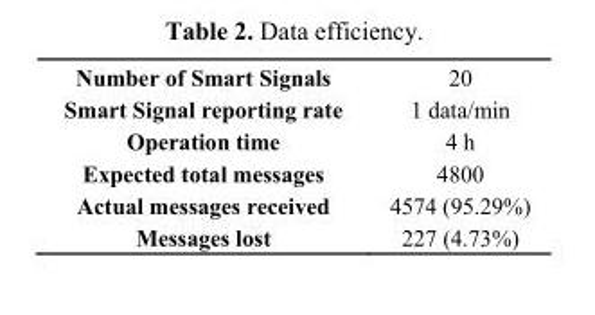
<table><tbody><tr><td>Number of Smart Signals</td><td>20</td></tr><tr><td>Smart Signal reporting rate</td><td>1 data/min</td></tr><tr><td>Operation time</td><td>4 h</td></tr><tr><td>Expected total messages</td><td>4800</td></tr><tr><td>Actual messages received</td><td>4574 (95.29%)</td></tr><tr><td>Messages lost</td><td>227 (4.73%)</td></tr></tbody></table>